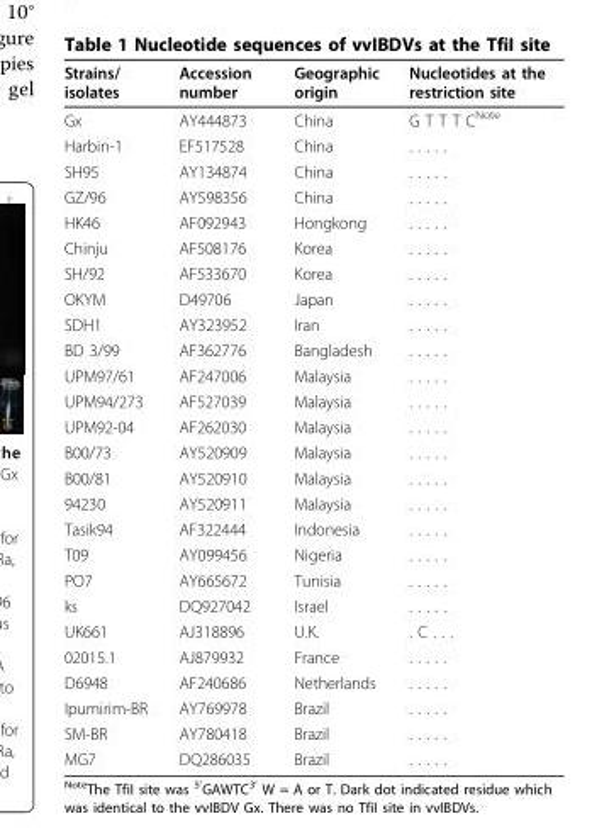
<table><thead><tr><td>Strains/ isolates</td><td>Accession number</td><td>Geographic origin</td><td>Nucleotides at the restriction site</td></tr></thead><tbody><tr><td>Gx</td><td>AY444873</td><td>China</td><td>G T T T C<sup>Note</sup></td></tr><tr><td>Harbin-1</td><td>EF517528</td><td>China</td><td>. . . . .</td></tr><tr><td>SH95</td><td>AY134874</td><td>China</td><td>. . . . .</td></tr><tr><td>GZ/96</td><td>AY598356</td><td>China</td><td>. . . . .</td></tr><tr><td>HK46</td><td>AF092943</td><td>Hongkong</td><td>. . . . .</td></tr><tr><td>Chinju</td><td>AF508176</td><td>Korea</td><td>. . . . .</td></tr><tr><td>SH/92</td><td>AF533670</td><td>Korea</td><td>. . . . .</td></tr><tr><td>OKYM</td><td>D49706</td><td>Japan</td><td>. . . . .</td></tr><tr><td>SDH1</td><td>AY323952</td><td>Iran</td><td>. . . . .</td></tr><tr><td>BD 3/99</td><td>AF362776</td><td>Bangladesh</td><td>. . . . .</td></tr><tr><td>UPM97/61</td><td>AF247006</td><td>Malaysia</td><td>. . . . .</td></tr><tr><td>UPM94/273</td><td>AF527039</td><td>Malaysia</td><td>. . . . .</td></tr><tr><td>UPM92-04</td><td>AF262030</td><td>Malaysia</td><td>. . . . .</td></tr><tr><td>B00/73</td><td>AY520909</td><td>Malaysia</td><td>. . . . .</td></tr><tr><td>B00/81</td><td>AY520910</td><td>Malaysia</td><td>. . . . .</td></tr><tr><td>94230</td><td>AY520911</td><td>Malaysia</td><td>. . . . .</td></tr><tr><td>Tasik94</td><td>AF322444</td><td>Indonesia</td><td>. . . . .</td></tr><tr><td>T09</td><td>AY099456</td><td>Nigeria</td><td>. . . . .</td></tr><tr><td>PO7</td><td>AY665672</td><td>Tunisia</td><td>. . . . .</td></tr><tr><td>ks</td><td>DQ927042</td><td>Israel</td><td>. . . . .</td></tr><tr><td>UK661</td><td>AJ318896</td><td>U.K.</td><td>. C . . .</td></tr><tr><td>02015.1</td><td>AJ879932</td><td>France</td><td>. . . . .</td></tr><tr><td>D6948</td><td>AF240686</td><td>Netherlands</td><td>. . . . .</td></tr><tr><td>Ipumirim-BR</td><td>AY769978</td><td>Brazil</td><td>. . . . .</td></tr><tr><td>SM-BR</td><td>AY780418</td><td>Brazil</td><td>. . . . .</td></tr><tr><td>MG7</td><td>DQ286035</td><td>Brazil</td><td>. . . . .</td></tr></tbody></table>